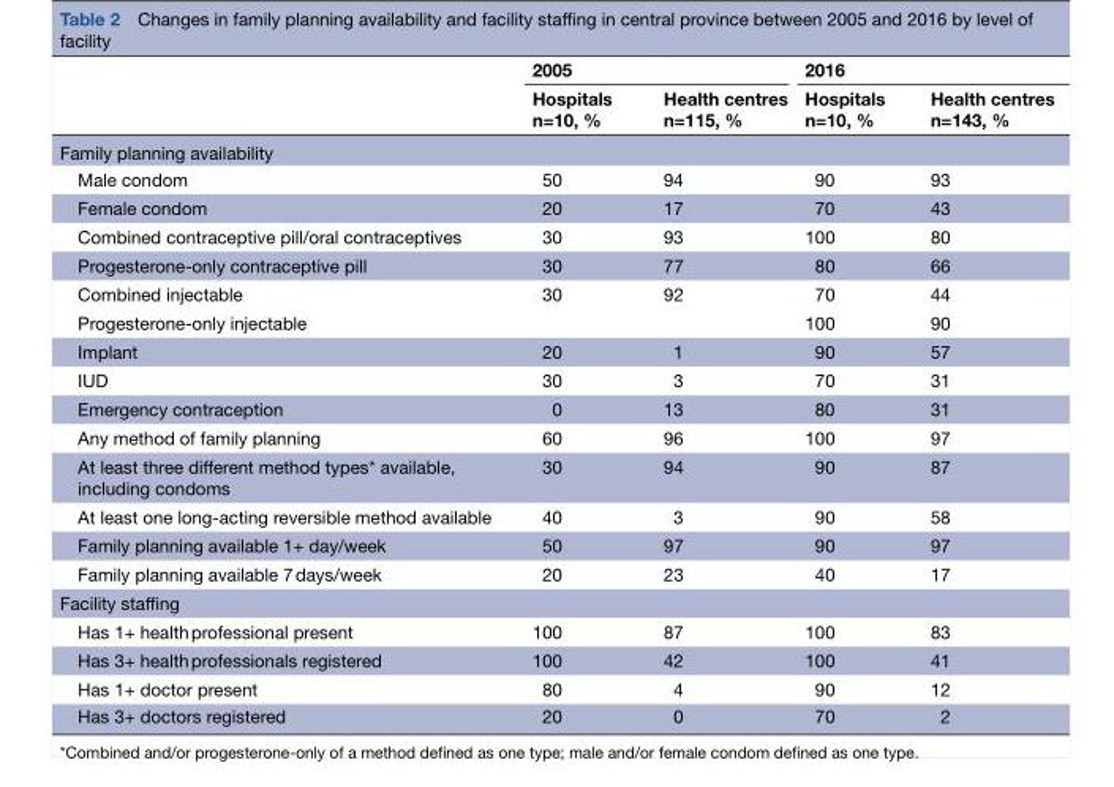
<table><thead><tr><td rowspan="2"></td><td colspan="2">2005</td><td colspan="2">2016</td></tr><tr><td>Hospitals n=10, %</td><td>Health centres n=115, %</td><td>Hospitals n=10, %</td><td>Health centres n=143, %</td></tr></thead><tbody><tr><td colspan="5">Family planning availability</td></tr><tr><td>Male condom</td><td>50</td><td>94</td><td>90</td><td>93</td></tr><tr><td>Female condom</td><td>20</td><td>17</td><td>70</td><td>43</td></tr><tr><td>Combined contraceptive pill/oral contraceptives</td><td>30</td><td>93</td><td>100</td><td>80</td></tr><tr><td>Progesterone-only contraceptive pill</td><td>30</td><td>77</td><td>80</td><td>66</td></tr><tr><td>Combined injectable</td><td rowspan="2">30</td><td rowspan="2">92</td><td>70</td><td>44</td></tr><tr><td>Progesterone-only injectable</td><td>100</td><td>90</td></tr><tr><td>Implant</td><td>20</td><td>1</td><td>90</td><td>57</td></tr><tr><td>IUD</td><td>30</td><td>3</td><td>70</td><td>31</td></tr><tr><td>Emergency contraception</td><td>0</td><td>13</td><td>80</td><td>31</td></tr><tr><td>Any method of family planning</td><td>60</td><td>96</td><td>100</td><td>97</td></tr><tr><td>At least three different method types* available, including condoms</td><td>30</td><td>94</td><td>90</td><td>87</td></tr><tr><td>At least one long-acting reversible method available</td><td>40</td><td>3</td><td>90</td><td>58</td></tr><tr><td>Family planning available 1+ day/week</td><td>50</td><td>97</td><td>90</td><td>97</td></tr><tr><td>Family planning available 7 days/week</td><td>20</td><td>23</td><td>40</td><td>17</td></tr><tr><td colspan="5">Facility staffing</td></tr><tr><td>Has 1+ health professional present</td><td>100</td><td>87</td><td>100</td><td>83</td></tr><tr><td>Has 3+ health professionals registered</td><td>100</td><td>42</td><td>100</td><td>41</td></tr><tr><td>Has 1+ doctor present</td><td>80</td><td>4</td><td>90</td><td>12</td></tr><tr><td>Has 3+ doctors registered</td><td>20</td><td>0</td><td>70</td><td>2</td></tr></tbody></table>